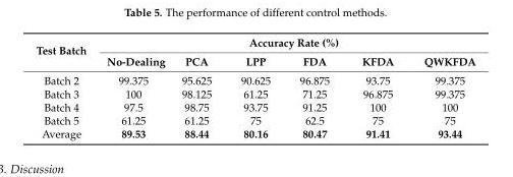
<table><thead><tr><td rowspan="2">Test Batch</td><td colspan="6">Accuracy Rate (%)</td></tr><tr><td>No-Dealing</td><td>PCA</td><td>LPP</td><td>FDA</td><td>KFDA</td><td>QWKFDA</td></tr></thead><tbody><tr><td>Batch 2</td><td>99.375</td><td>95.625</td><td>90.625</td><td>96.875</td><td>93.75</td><td>99.375</td></tr><tr><td>Batch 3</td><td>100</td><td>98.125</td><td>61.25</td><td>71.25</td><td>96.875</td><td>99.375</td></tr><tr><td>Batch 4</td><td>97.5</td><td>98.75</td><td>93.75</td><td>91.25</td><td>100</td><td>100</td></tr><tr><td>Batch 5</td><td>61.25</td><td>61.25</td><td>75</td><td>62.5</td><td>75</td><td>75</td></tr><tr><td>Average</td><td>89.53</td><td>88.44</td><td>80.16</td><td>80.47</td><td>91.41</td><td>93.44</td></tr></tbody></table>